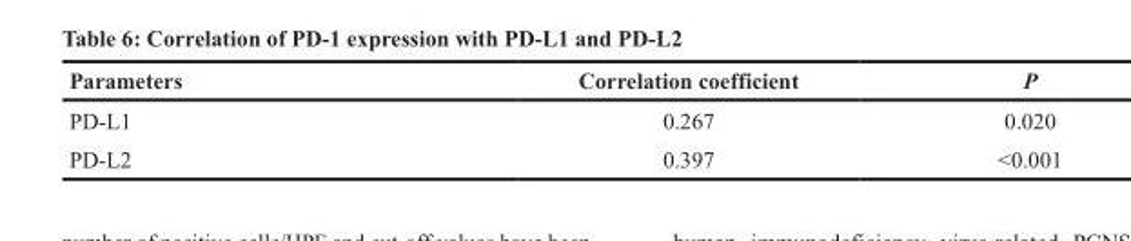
<table><thead><tr><td>Parameters</td><td>Correlation coefficient</td><td>P</td></tr></thead><tbody><tr><td>PD-L1</td><td>0.267</td><td>0.020</td></tr><tr><td>PD-L2</td><td>0.397</td><td>&lt;0.001</td></tr></tbody></table>